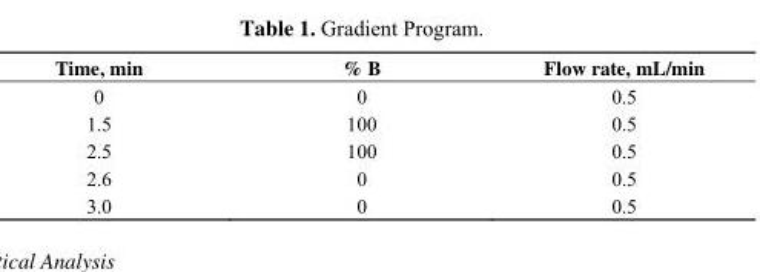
<table><thead><tr><td>Time, min</td><td>% B</td><td>Flow rate, mL/min</td></tr></thead><tbody><tr><td>0</td><td>0</td><td>0.5</td></tr><tr><td>1.5</td><td>100</td><td>0.5</td></tr><tr><td>2.5</td><td>100</td><td>0.5</td></tr><tr><td>2.6</td><td>0</td><td>0.5</td></tr><tr><td>3.0</td><td>0</td><td>0.5</td></tr></tbody></table>